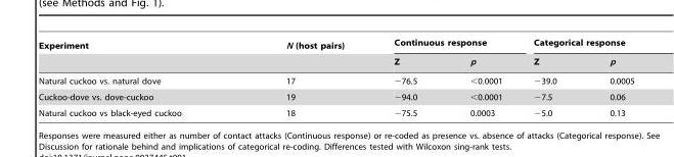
<table><thead><tr><td rowspan="2">Experiment</td><td rowspan="2">N (host pairs)</td><td colspan="2">Continuous response</td><td colspan="2">Categorical response</td></tr><tr><td>Z</td><td>p</td><td>Z</td><td>p</td></tr></thead><tbody><tr><td>Natural cuckoo vs. natural dove</td><td>17</td><td>−76.5</td><td>&lt;0.0001</td><td>−39.0</td><td>0.0005</td></tr><tr><td>Cuckoo-dove vs. dove-cuckoo</td><td>19</td><td>−94.0</td><td>&lt;0.0001</td><td>−7.5</td><td>0.06</td></tr><tr><td>Natural cuckoo vs black-eyed cuckoo</td><td>18</td><td>−75.5</td><td>0.0003</td><td>−5.0</td><td>0.13</td></tr></tbody></table>